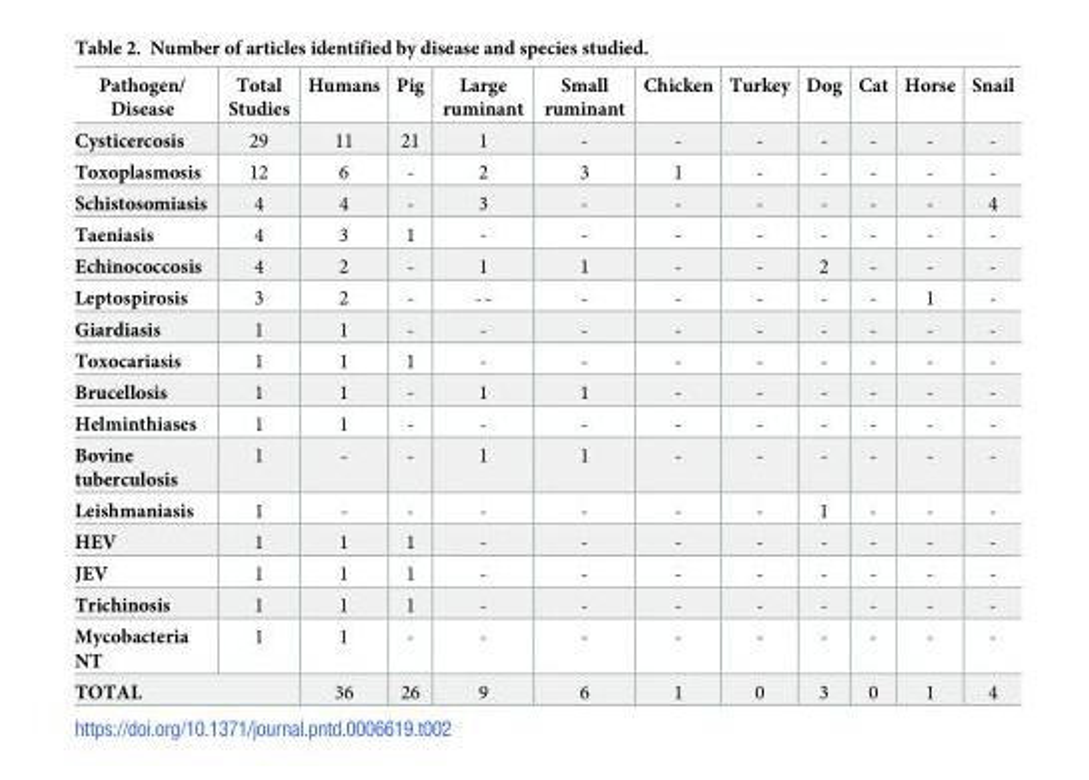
<table><thead><tr><td>Pathogen/ Disease</td><td>Total Studies</td><td>Humans</td><td>Pig</td><td>Large ruminant</td><td>Small ruminant</td><td>Chicken</td><td>Turkey</td><td>Dog</td><td>Cat</td><td>Horse</td><td>Snail</td></tr></thead><tbody><tr><td>Cysticercosis</td><td>29</td><td>11</td><td>21</td><td>1</td><td>-</td><td>-</td><td>-</td><td>-</td><td>-</td><td>-</td><td>-</td></tr><tr><td>Toxoplasmosis</td><td>12</td><td>6</td><td>-</td><td>2</td><td>3</td><td>1</td><td>-</td><td>-</td><td>-</td><td>-</td><td>-</td></tr><tr><td>Schistosomiasis</td><td>4</td><td>4</td><td>-</td><td>3</td><td>-</td><td>-</td><td>-</td><td>-</td><td>-</td><td>-</td><td>4</td></tr><tr><td>Taeniasis</td><td>4</td><td>3</td><td>1</td><td>-</td><td>-</td><td>-</td><td>-</td><td>-</td><td>-</td><td>-</td><td>-</td></tr><tr><td>Echinococcosis</td><td>4</td><td>2</td><td>-</td><td>1</td><td>1</td><td>-</td><td>-</td><td>2</td><td>-</td><td>-</td><td>-</td></tr><tr><td>Leptospirosis</td><td>3</td><td>2</td><td>-</td><td>--</td><td>-</td><td>-</td><td>-</td><td>-</td><td>-</td><td>1</td><td>-</td></tr><tr><td>Giardiasis</td><td>1</td><td>1</td><td>-</td><td>-</td><td>-</td><td>-</td><td>-</td><td>-</td><td>-</td><td>-</td><td>-</td></tr><tr><td>Toxocariasis</td><td>1</td><td>1</td><td>1</td><td>-</td><td>-</td><td>-</td><td>-</td><td>-</td><td>-</td><td>-</td><td>-</td></tr><tr><td>Brucellosis</td><td>1</td><td>1</td><td>-</td><td>1</td><td>1</td><td>-</td><td>-</td><td>-</td><td>-</td><td>-</td><td>-</td></tr><tr><td>Helminthiases</td><td>1</td><td>1</td><td>-</td><td>-</td><td>-</td><td>-</td><td>-</td><td>-</td><td>-</td><td>-</td><td>-</td></tr><tr><td>Bovine tuberculosis</td><td>1</td><td>-</td><td>-</td><td>1</td><td>1</td><td>-</td><td>-</td><td>-</td><td>-</td><td>-</td><td>-</td></tr><tr><td>Leishmaniasis</td><td>1</td><td>-</td><td>-</td><td>-</td><td>-</td><td>-</td><td>-</td><td>1</td><td>-</td><td>-</td><td>-</td></tr><tr><td>HEV</td><td>1</td><td>1</td><td>1</td><td>-</td><td>-</td><td>-</td><td>-</td><td>-</td><td>-</td><td>-</td><td>-</td></tr><tr><td>JEV</td><td>1</td><td>1</td><td>1</td><td>-</td><td>-</td><td>-</td><td>-</td><td>-</td><td>-</td><td>-</td><td>-</td></tr><tr><td>Trichinosis</td><td>1</td><td>1</td><td>1</td><td>-</td><td>-</td><td>-</td><td>-</td><td>-</td><td>-</td><td>-</td><td>-</td></tr><tr><td>Mycobacteria NT</td><td>1</td><td>1</td><td>-</td><td>-</td><td>-</td><td>-</td><td>-</td><td>-</td><td>-</td><td>-</td><td>-</td></tr><tr><td colspan="2">TOTAL</td><td>36</td><td>26</td><td>9</td><td>6</td><td>1</td><td>0</td><td>3</td><td>0</td><td>1</td><td>4</td></tr></tbody></table>